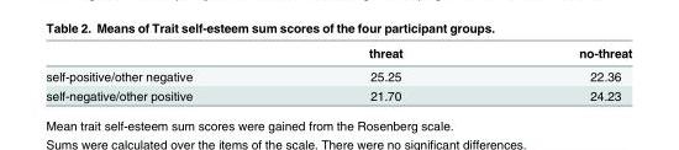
<table><thead><tr><td></td><td>threat</td><td>no-threat</td></tr></thead><tbody><tr><td>self-positive/other negative</td><td>25.25</td><td>22.36</td></tr><tr><td>self-negative/other positive</td><td>21.70</td><td>24.23</td></tr></tbody></table>